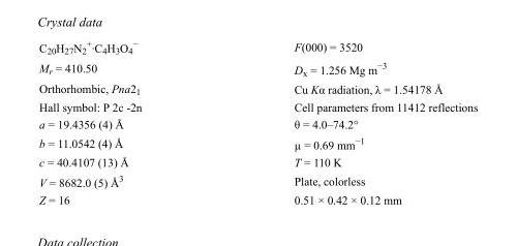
<table><tbody><tr><td>C<sub>20</sub>H<sub>27</sub>N<sub>2</sub> <sup>+</sup>·C<sub>4</sub>H<sub>3</sub>O<sub>4</sub> <sup>−</sup></td><td>F(000) = 3520</td></tr><tr><td>M<sub>r</sub> = 410.50</td><td>D<sub>x</sub> = 1.256 Mg m<sup>−3</sup></td></tr><tr><td>Orthorhombic, Pna2<sub>1</sub></td><td>Cu Kα radiation, λ = 1.54178 Å</td></tr><tr><td>Hall symbol: P 2c -2n</td><td>Cell parameters from 11412 reflections</td></tr><tr><td>a = 19.4356 (4) Å</td><td>θ = 4.0–74.2°</td></tr><tr><td>b = 11.0542 (4) Å</td><td>µ = 0.69 mm<sup>−1</sup></td></tr><tr><td>c = 40.4107 (13) Å</td><td>T = 110 K</td></tr><tr><td>V = 8682.0 (5) Å<sup>3</sup></td><td>Plate, colorless</td></tr><tr><td>Z = 16</td><td>0.51 × 0.42 × 0.12 mm</td></tr></tbody></table>